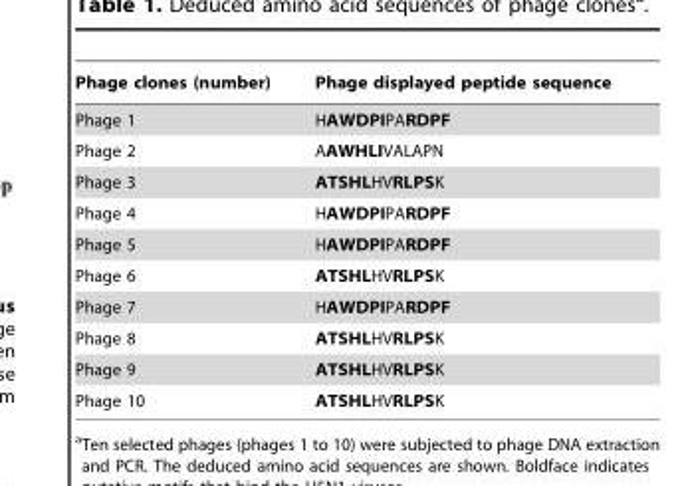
<table><thead><tr><td>Phage clones (number)</td><td>Phage displayed peptide sequence</td></tr></thead><tbody><tr><td>Phage 1</td><td>HAWDPIPARDPF</td></tr><tr><td>Phage 2</td><td>AAWHLIVALAPN</td></tr><tr><td>Phage 3</td><td>ATSHLHVRLPSK</td></tr><tr><td>Phage 4</td><td>HAWDPIPARDPF</td></tr><tr><td>Phage 5</td><td>HAWDPIPARDPF</td></tr><tr><td>Phage 6</td><td>ATSHLHVRLPSK</td></tr><tr><td>Phage 7</td><td>HAWDPIPARDPF</td></tr><tr><td>Phage 8</td><td>ATSHLHVRLPSK</td></tr><tr><td>Phage 9</td><td>ATSHLHVRLPSK</td></tr><tr><td>Phage 10</td><td>ATSHLHVRLPSK</td></tr></tbody></table>